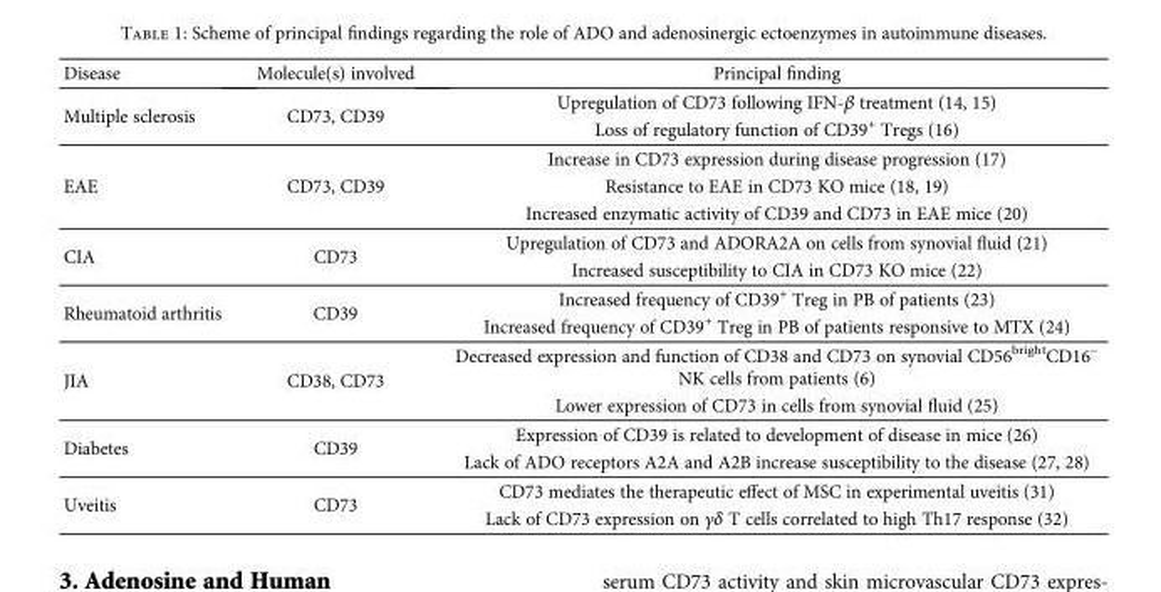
<table><thead><tr><td>Disease</td><td>Molecule(s) involved</td><td>Principal finding</td></tr></thead><tbody><tr><td rowspan="2">Multiple sclerosis</td><td rowspan="2">CD73, CD39</td><td>Upregulation of CD73 following IFN-β treatment (14, 15)</td></tr><tr><td>Loss of regulatory function of CD39<sup>+</sup> Tregs (16)</td></tr><tr><td rowspan="3">EAE</td><td rowspan="3">CD73, CD39</td><td>Increase in CD73 expression during disease progression (17)</td></tr><tr><td>Resistance to EAE in CD73 KO mice (18, 19)</td></tr><tr><td>Increased enzymatic activity of CD39 and CD73 in EAE mice (20)</td></tr><tr><td rowspan="2">CIA</td><td rowspan="2">CD73</td><td>Upregulation of CD73 and ADORA2A on cells from synovial fluid (21)</td></tr><tr><td>Increased susceptibility to CIA in CD73 KO mice (22)</td></tr><tr><td rowspan="2">Rheumatoid arthritis</td><td rowspan="2">CD39</td><td>Increased frequency of CD39<sup>+</sup> Treg in PB of patients (23)</td></tr><tr><td>Increased frequency of CD39<sup>+</sup> Treg in PB of patients responsive to MTX (24)</td></tr><tr><td rowspan="2">JIA</td><td rowspan="2">CD38, CD73</td><td>Decreased expression and function of CD38 and CD73 on synovial CD56<sup>bright</sup>CD16<sup>−</sup> NK cells from patients (6)</td></tr><tr><td>Lower expression of CD73 in cells from synovial fluid (25)</td></tr><tr><td rowspan="2">Diabetes</td><td rowspan="2">CD39</td><td>Expression of CD39 is related to development of disease in mice (26)</td></tr><tr><td>Lack of ADO receptors A2A and A2B increase susceptibility to the disease (27, 28)</td></tr><tr><td rowspan="2">Uveitis</td><td rowspan="2">CD73</td><td>CD73 mediates the therapeutic effect of MSC in experimental uveitis (31)</td></tr><tr><td>Lack of CD73 expression on γδ T cells correlated to high Th17 response (32)</td></tr></tbody></table>